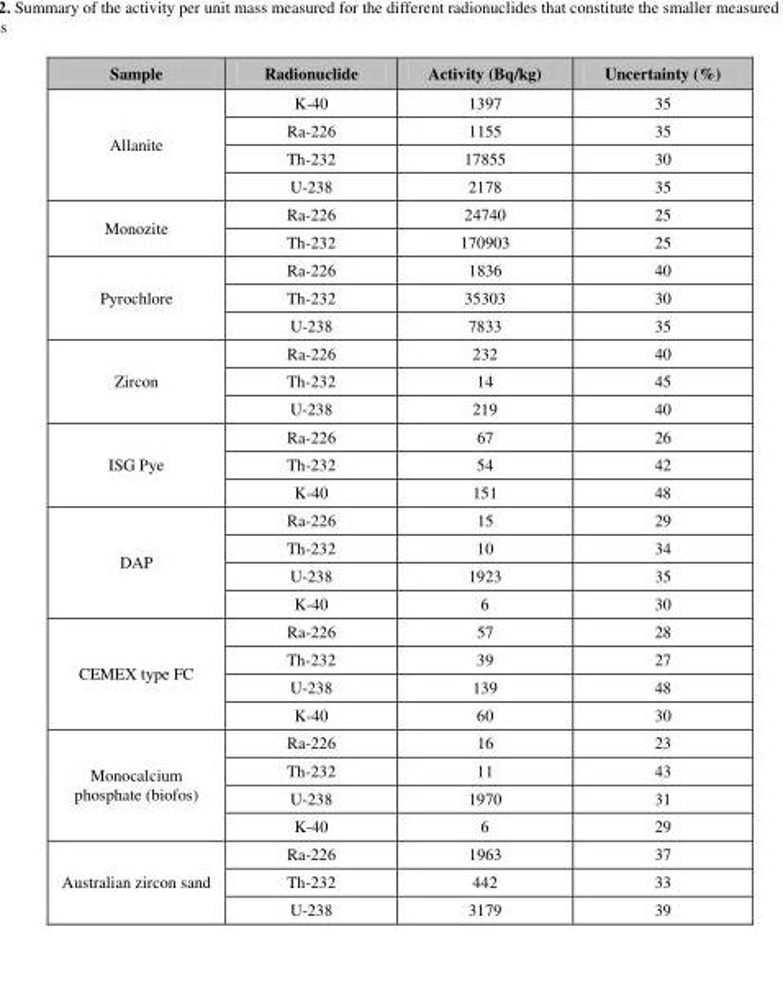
<table><thead><tr><td>Sample</td><td>Radionuclide</td><td>Activity (Bq/kg)</td><td>Uncertainty (%)</td></tr></thead><tbody><tr><td rowspan="4">Allanite</td><td>K-40</td><td>1397</td><td>35</td></tr><tr><td>Ra-226</td><td>1155</td><td>35</td></tr><tr><td>Th-232</td><td>17855</td><td>30</td></tr><tr><td>U-238</td><td>2178</td><td>35</td></tr><tr><td rowspan="2">Monozite</td><td>Ra-226</td><td>24740</td><td>25</td></tr><tr><td>Th-232</td><td>170903</td><td>25</td></tr><tr><td rowspan="3">Pyrochlore</td><td>Ra-226</td><td>1836</td><td>40</td></tr><tr><td>Th-232</td><td>35303</td><td>30</td></tr><tr><td>U-238</td><td>7833</td><td>35</td></tr><tr><td rowspan="3">Zircon</td><td>Ra-226</td><td>232</td><td>40</td></tr><tr><td>Th-232</td><td>14</td><td>45</td></tr><tr><td>U-238</td><td>219</td><td>40</td></tr><tr><td rowspan="3">ISG Pye</td><td>Ra-226</td><td>67</td><td>26</td></tr><tr><td>Th-232</td><td>54</td><td>42</td></tr><tr><td>K-40</td><td>151</td><td>48</td></tr><tr><td rowspan="4">DAP</td><td>Ra-226</td><td>15</td><td>29</td></tr><tr><td>Th-232</td><td>10</td><td>34</td></tr><tr><td>U-238</td><td>1923</td><td>35</td></tr><tr><td>K-40</td><td>6</td><td>30</td></tr><tr><td rowspan="4">CEMEX type FC</td><td>Ra-226</td><td>57</td><td>28</td></tr><tr><td>Th-232</td><td>39</td><td>27</td></tr><tr><td>U-238</td><td>139</td><td>48</td></tr><tr><td>K-40</td><td>60</td><td>30</td></tr><tr><td rowspan="4">Monocalcium phosphate (biofos)</td><td>Ra-226</td><td>16</td><td>23</td></tr><tr><td>Th-232</td><td>11</td><td>43</td></tr><tr><td>U-238</td><td>1970</td><td>31</td></tr><tr><td>K-40</td><td>6</td><td>29</td></tr><tr><td rowspan="3">Australian zircon sand</td><td>Ra-226</td><td>1963</td><td>37</td></tr><tr><td>Th-232</td><td>442</td><td>33</td></tr><tr><td>U-238</td><td>3179</td><td>39</td></tr></tbody></table>